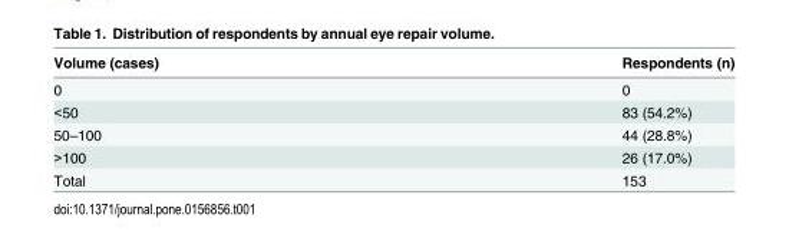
<table><thead><tr><td>Volume (cases)</td><td>Respondents (n)</td></tr></thead><tbody><tr><td>0</td><td>0</td></tr><tr><td>&lt;50</td><td>83 (54.2%)</td></tr><tr><td>50–100</td><td>44 (28.8%)</td></tr><tr><td>&gt;100</td><td>26 (17.0%)</td></tr><tr><td>Total</td><td>153</td></tr></tbody></table>